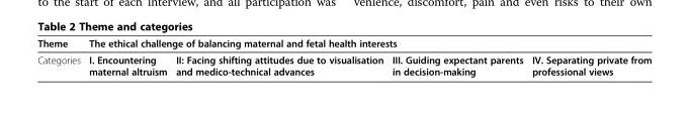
<table><thead><tr><td rowspan="2">Theme Categories</td><td colspan="4">The ethical challenge of balancing maternal and fetal health interests</td></tr><tr><td>I. Encountering maternal altruism</td><td>II: Facing shifting attitudes due to visualisation and medico-technical advances</td><td>III. Guiding expectant parents in decision-making</td><td>IV. Separating private from professional views</td></tr></thead><tbody></tbody></table>